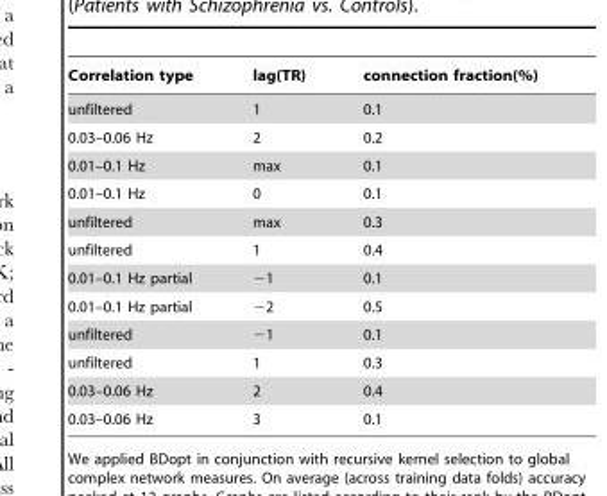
<table><thead><tr><td>Correlation type</td><td>lag(TR)</td><td>connection fraction(%)</td></tr></thead><tbody><tr><td>unfiltered</td><td>1</td><td>0.1</td></tr><tr><td>0.03–0.06 Hz</td><td>2</td><td>0.2</td></tr><tr><td>0.01–0.1 Hz</td><td>max</td><td>0.1</td></tr><tr><td>0.01–0.1 Hz</td><td>0</td><td>0.1</td></tr><tr><td>unfiltered</td><td>max</td><td>0.3</td></tr><tr><td>unfiltered</td><td>1</td><td>0.4</td></tr><tr><td>0.01–0.1 Hz partial</td><td>−1</td><td>0.1</td></tr><tr><td>0.01–0.1 Hz partial</td><td>−2</td><td>0.5</td></tr><tr><td>unfiltered</td><td>−1</td><td>0.1</td></tr><tr><td>unfiltered</td><td>1</td><td>0.3</td></tr><tr><td>0.03–0.06 Hz</td><td>2</td><td>0.4</td></tr><tr><td>0.03–0.06 Hz</td><td>3</td><td>0.1</td></tr></tbody></table>